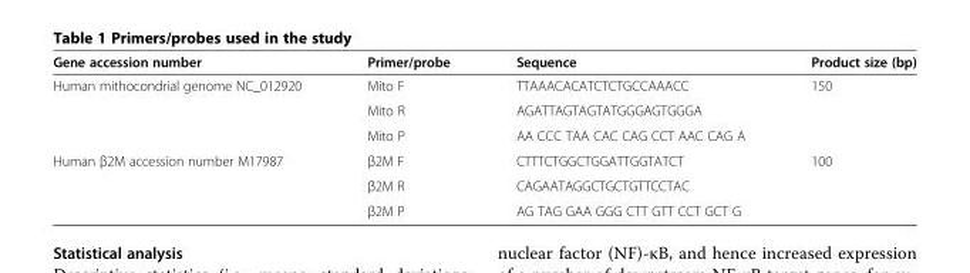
<table><thead><tr><td>Gene accession number</td><td>Primer/probe</td><td>Sequence</td><td>Product size (bp)</td></tr></thead><tbody><tr><td rowspan="3">Human mithocondrial genome NC_012920</td><td>Mito F</td><td>TTAAACACATCTCTGCCAAACC</td><td>150</td></tr><tr><td>Mito R</td><td>AGATTAGTAGTATGGGAGTGGGA</td><td></td></tr><tr><td>Mito P</td><td>AA CCC TAA CAC CAG CCT AAC CAG A</td><td></td></tr><tr><td rowspan="3">Human β2M accession number M17987</td><td>β2M F</td><td>CTTTCTGGCTGGATTGGTATCT</td><td>100</td></tr><tr><td>β2M R</td><td>CAGAATAGGCTGCTGTTCCTAC</td><td></td></tr><tr><td>β2M P</td><td>AG TAG GAA GGG CTT GTT CCT GCT G</td><td></td></tr></tbody></table>